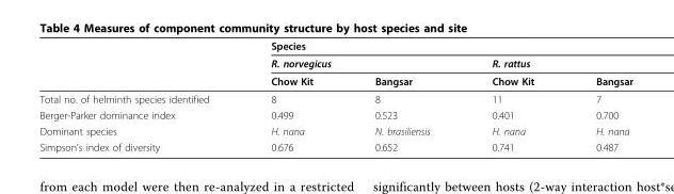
<table><thead><tr><td rowspan="3"></td><td colspan="4">Species</td></tr><tr><td colspan="2">R. norvegicus</td><td colspan="2">R. rattus</td></tr><tr><td>Chow Kit</td><td>Bangsar</td><td>Chow Kit</td><td>Bangsar</td></tr></thead><tbody><tr><td>Total no. of helminth species identified</td><td>8</td><td>8</td><td>11</td><td>7</td></tr><tr><td>Berger-Parker dominance index</td><td>0.499</td><td>0.523</td><td>0.401</td><td>0.700</td></tr><tr><td>Dominant species</td><td>H. nana</td><td>N. brasiliensis</td><td>H. nana</td><td>H. nana</td></tr><tr><td>Simpson’s index of diversity</td><td>0.676</td><td>0.652</td><td>0.741</td><td>0.487</td></tr></tbody></table>